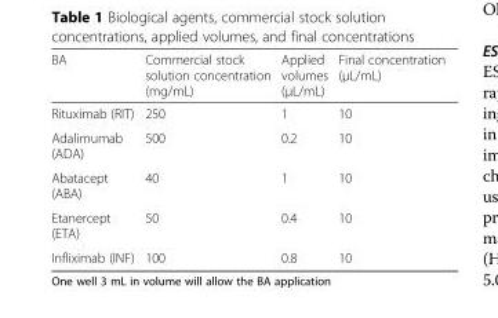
<table><thead><tr><td>BA</td><td>Commercial stock solution concentration (mg/mL)</td><td>Applied volumes (μL/mL)</td><td>Final concentration (μL/mL)</td></tr></thead><tbody><tr><td>Rituximab (RIT)</td><td>250</td><td>1</td><td>10</td></tr><tr><td>Adalimumab (ADA)</td><td>500</td><td>0.2</td><td>10</td></tr><tr><td>Abatacept (ABA)</td><td>40</td><td>1</td><td>10</td></tr><tr><td>Etanercept (ETA)</td><td>50</td><td>0.4</td><td>10</td></tr><tr><td>Infliximab (INF)</td><td>100</td><td>0.8</td><td>10</td></tr></tbody></table>